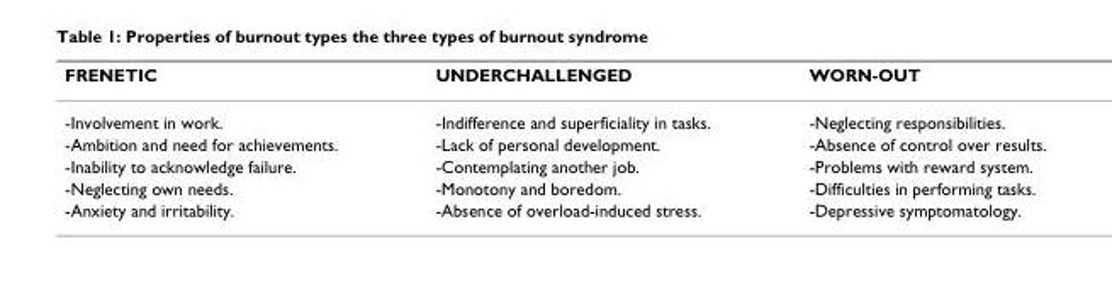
<table><thead><tr><td>FRENETIC</td><td>UNDERCHALLENGED</td><td>WORN-OUT</td></tr></thead><tbody><tr><td>-Involvement in work.</td><td>-Indifference and superficiality in tasks.</td><td>-Neglecting responsibilities.</td></tr><tr><td>-Ambition and need for achievements.</td><td>-Lack of personal development.</td><td>-Absence of control over results.</td></tr><tr><td>-Inability to acknowledge failure.</td><td>-Contemplating another job.</td><td>-Problems with reward system.</td></tr><tr><td>-Neglecting own needs.</td><td>-Monotony and boredom.</td><td>-Difficulties in performing tasks.</td></tr><tr><td>-Anxiety and irritability.</td><td>-Absence of overload-induced stress.</td><td>-Depressive symptomatology.</td></tr></tbody></table>